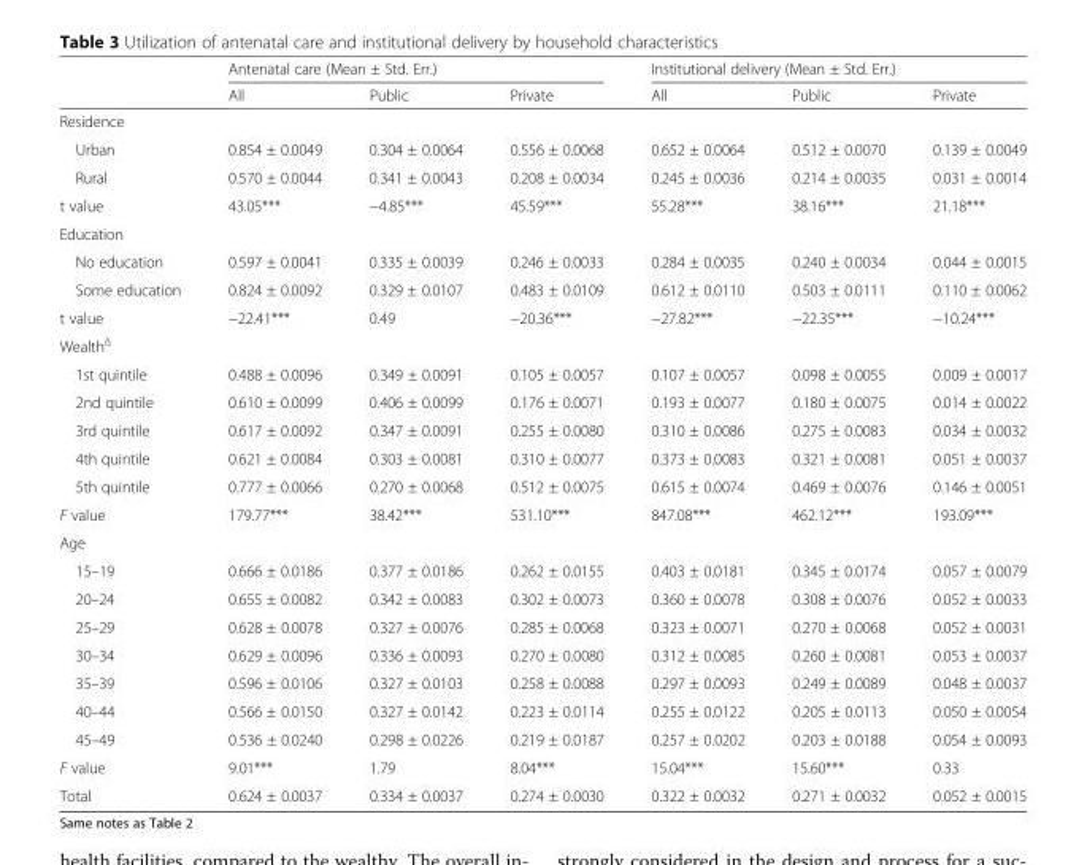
<table><thead><tr><td rowspan="2"></td><td colspan="3">Antenatal care (Mean ± Std. Err.)</td><td colspan="3">Institutional delivery (Mean ± Std. Err.)</td></tr><tr><td>All</td><td>Public</td><td>Private</td><td>All</td><td>Public</td><td>Private</td></tr></thead><tbody><tr><td colspan="7">Residence</td></tr><tr><td>Urban</td><td>0.854 ± 0.0049</td><td>0.304 ± 0.0064</td><td>0.556 ± 0.0068</td><td>0.652 ± 0.0064</td><td>0.512 ± 0.0070</td><td>0.139 ± 0.0049</td></tr><tr><td>Rural</td><td>0.570 ± 0.0044</td><td>0.341 ± 0.0043</td><td>0.208 ± 0.0034</td><td>0.245 ± 0.0036</td><td>0.214 ± 0.0035</td><td>0.031 ± 0.0014</td></tr><tr><td>t value</td><td>43.05***</td><td>−4.85***</td><td>45.59***</td><td>55.28***</td><td>38.16***</td><td>21.18***</td></tr><tr><td colspan="7">Education</td></tr><tr><td>No education</td><td>0.597 ± 0.0041</td><td>0.335 ± 0.0039</td><td>0.246 ± 0.0033</td><td>0.284 ± 0.0035</td><td>0.240 ± 0.0034</td><td>0.044 ± 0.0015</td></tr><tr><td>Some education</td><td>0.824 ± 0.0092</td><td>0.329 ± 0.0107</td><td>0.483 ± 0.0109</td><td>0.612 ± 0.0110</td><td>0.503 ± 0.0111</td><td>0.110 ± 0.0062</td></tr><tr><td>t value</td><td>−22.41***</td><td>0.49</td><td>−20.36***</td><td>−27.82***</td><td>−22.35***</td><td>−10.24***</td></tr><tr><td colspan="7">WealthΔ</td></tr><tr><td>1st quintile</td><td>0.488 ± 0.0096</td><td>0.349 ± 0.0091</td><td>0.105 ± 0.0057</td><td>0.107 ± 0.0057</td><td>0.098 ± 0.0055</td><td>0.009 ± 0.0017</td></tr><tr><td>2nd quintile</td><td>0.610 ± 0.0099</td><td>0.406 ± 0.0099</td><td>0.176 ± 0.0071</td><td>0.193 ± 0.0077</td><td>0.180 ± 0.0075</td><td>0.014 ± 0.0022</td></tr><tr><td>3rd quintile</td><td>0.617 ± 0.0092</td><td>0.347 ± 0.0091</td><td>0.255 ± 0.0080</td><td>0.310 ± 0.0086</td><td>0.275 ± 0.0083</td><td>0.034 ± 0.0032</td></tr><tr><td>4th quintile</td><td>0.621 ± 0.0084</td><td>0.303 ± 0.0081</td><td>0.310 ± 0.0077</td><td>0.373 ± 0.0083</td><td>0.321 ± 0.0081</td><td>0.051 ± 0.0037</td></tr><tr><td>5th quintile</td><td>0.777 ± 0.0066</td><td>0.270 ± 0.0068</td><td>0.512 ± 0.0075</td><td>0.615 ± 0.0074</td><td>0.469 ± 0.0076</td><td>0.146 ± 0.0051</td></tr><tr><td>F value</td><td>179.77***</td><td>38.42***</td><td>531.10***</td><td>847.08***</td><td>462.12***</td><td>193.09***</td></tr><tr><td colspan="7">Age</td></tr><tr><td>15–19</td><td>0.666 ± 0.0186</td><td>0.377 ± 0.0186</td><td>0.262 ± 0.0155</td><td>0.403 ± 0.0181</td><td>0.345 ± 0.0174</td><td>0.057 ± 0.0079</td></tr><tr><td>20–24</td><td>0.655 ± 0.0082</td><td>0.342 ± 0.0083</td><td>0.302 ± 0.0073</td><td>0.360 ± 0.0078</td><td>0.308 ± 0.0076</td><td>0.052 ± 0.0033</td></tr><tr><td>25–29</td><td>0.628 ± 0.0078</td><td>0.327 ± 0.0076</td><td>0.285 ± 0.0068</td><td>0.323 ± 0.0071</td><td>0.270 ± 0.0068</td><td>0.052 ± 0.0031</td></tr><tr><td>30–34</td><td>0.629 ± 0.0096</td><td>0.336 ± 0.0093</td><td>0.270 ± 0.0080</td><td>0.312 ± 0.0085</td><td>0.260 ± 0.0081</td><td>0.053 ± 0.0037</td></tr><tr><td>35–39</td><td>0.596 ± 0.0106</td><td>0.327 ± 0.0103</td><td>0.258 ± 0.0088</td><td>0.297 ± 0.0093</td><td>0.249 ± 0.0089</td><td>0.048 ± 0.0037</td></tr><tr><td>40–44</td><td>0.566 ± 0.0150</td><td>0.327 ± 0.0142</td><td>0.223 ± 0.0114</td><td>0.255 ± 0.0122</td><td>0.205 ± 0.0113</td><td>0.050 ± 0.0054</td></tr><tr><td>45–49</td><td>0.536 ± 0.0240</td><td>0.298 ± 0.0226</td><td>0.219 ± 0.0187</td><td>0.257 ± 0.0202</td><td>0.203 ± 0.0188</td><td>0.054 ± 0.0093</td></tr><tr><td>F value</td><td>9.01***</td><td>1.79</td><td>8.04***</td><td>15.04***</td><td>15.60***</td><td>0.33</td></tr><tr><td>Total</td><td>0.624 ± 0.0037</td><td>0.334 ± 0.0037</td><td>0.274 ± 0.0030</td><td>0.322 ± 0.0032</td><td>0.271 ± 0.0032</td><td>0.052 ± 0.0015</td></tr></tbody></table>